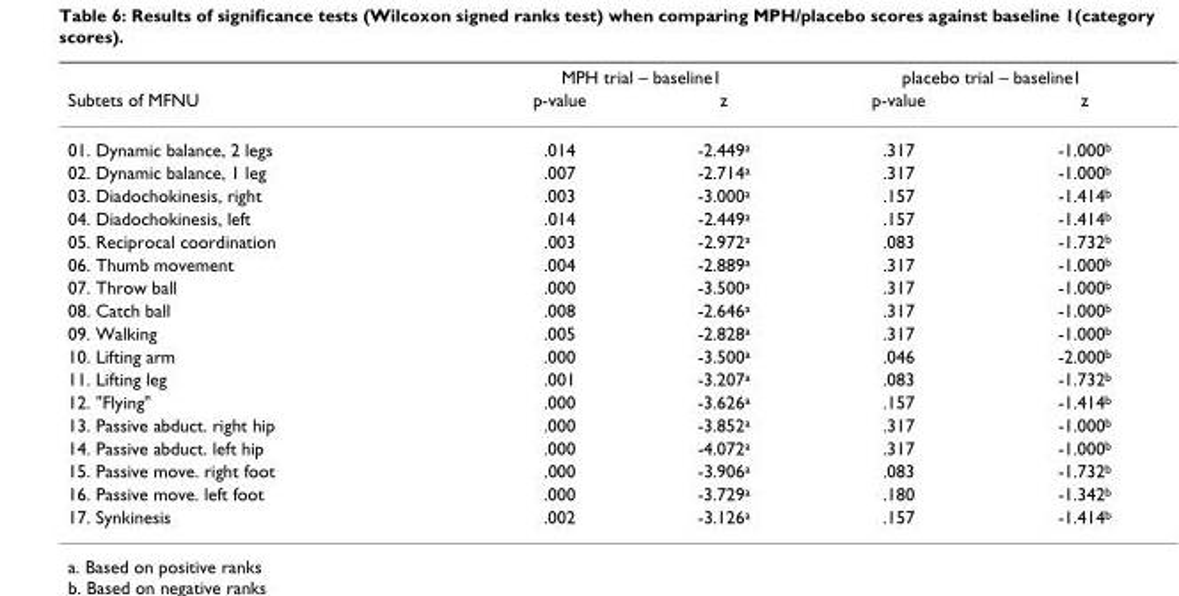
<table><thead><tr><td rowspan="2">Subtets of MFNU</td><td colspan="2">MPH trial – baseline1</td><td colspan="2">placebo trial – baseline1</td></tr><tr><td>p-value</td><td>z</td><td>p-value</td><td>z</td></tr></thead><tbody><tr><td>01. Dynamic balance, 2 legs</td><td>.014</td><td>-2.449<sup>a</sup></td><td>.317</td><td>-1.000<sup>b</sup></td></tr><tr><td>02. Dynamic balance, 1 leg</td><td>.007</td><td>-2.714<sup>a</sup></td><td>.317</td><td>-1.000<sup>b</sup></td></tr><tr><td>03. Diadochokinesis, right</td><td>.003</td><td>-3.000<sup>a</sup></td><td>.157</td><td>-1.414<sup>b</sup></td></tr><tr><td>04. Diadochokinesis, left</td><td>.014</td><td>-2.449<sup>a</sup></td><td>.157</td><td>-1.414<sup>b</sup></td></tr><tr><td>05. Reciprocal coordination</td><td>.003</td><td>-2.972<sup>a</sup></td><td>.083</td><td>-1.732<sup>b</sup></td></tr><tr><td>06. Thumb movement</td><td>.004</td><td>-2.889<sup>a</sup></td><td>.317</td><td>-1.000<sup>b</sup></td></tr><tr><td>07. Throw ball</td><td>.000</td><td>-3.500<sup>a</sup></td><td>.317</td><td>-1.000<sup>b</sup></td></tr><tr><td>08. Catch ball</td><td>.008</td><td>-2.646<sup>a</sup></td><td>.317</td><td>-1.000<sup>b</sup></td></tr><tr><td>09. Walking</td><td>.005</td><td>-2.828<sup>a</sup></td><td>.317</td><td>-1.000<sup>b</sup></td></tr><tr><td>10. Lifting arm</td><td>.000</td><td>-3.500<sup>a</sup></td><td>.046</td><td>-2.000<sup>b</sup></td></tr><tr><td>11. Lifting leg</td><td>.001</td><td>-3.207<sup>a</sup></td><td>.083</td><td>-1.732<sup>b</sup></td></tr><tr><td>12. &quot;Flying&quot;</td><td>.000</td><td>-3.626<sup>a</sup></td><td>.157</td><td>-1.414<sup>b</sup></td></tr><tr><td>13. Passive abduct. right hip</td><td>.000</td><td>-3.852<sup>a</sup></td><td>.317</td><td>-1.000<sup>b</sup></td></tr><tr><td>14. Passive abduct. left hip</td><td>.000</td><td>-4.072<sup>a</sup></td><td>.317</td><td>-1.000<sup>b</sup></td></tr><tr><td>15. Passive move. right foot</td><td>.000</td><td>-3.906<sup>a</sup></td><td>.083</td><td>-1.732<sup>b</sup></td></tr><tr><td>16. Passive move. left foot</td><td>.000</td><td>-3.729<sup>a</sup></td><td>.180</td><td>-1.342<sup>b</sup></td></tr><tr><td>17. Synkinesis</td><td>.002</td><td>-3.126<sup>a</sup></td><td>.157</td><td>-1.414<sup>b</sup></td></tr></tbody></table>